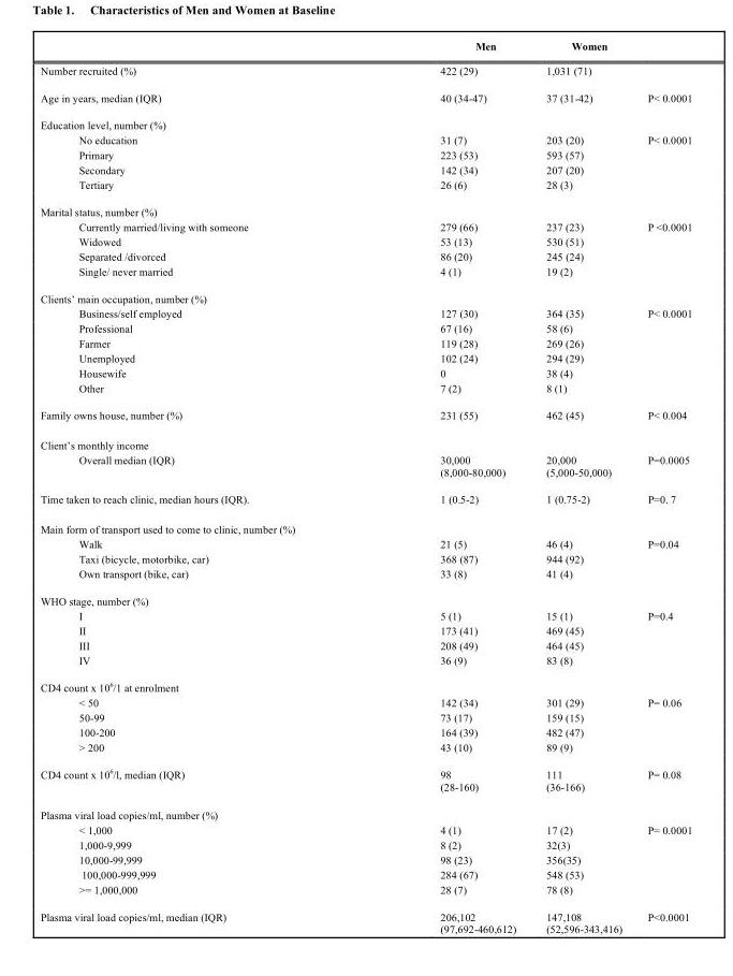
<table><thead><tr><td></td><td>Men</td><td>Women</td><td></td></tr></thead><tbody><tr><td>Number recruited (%)</td><td>422 (29)</td><td>1,031 (71)</td><td></td></tr><tr><td>Age in years, median (IQR)</td><td>40 (34-47)</td><td>37 (31-42)</td><td>P&lt; 0.0001</td></tr><tr><td colspan="4">Education level, number (%)</td></tr><tr><td>No education</td><td>31 (7)</td><td>203 (20)</td><td>P&lt; 0.0001</td></tr><tr><td>Primary</td><td>223 (53)</td><td>593 (57)</td><td></td></tr><tr><td>Secondary</td><td>142 (34)</td><td>207 (20)</td><td></td></tr><tr><td>Tertiary</td><td>26 (6)</td><td>28 (3)</td><td></td></tr><tr><td colspan="4">Marital status, number (%)</td></tr><tr><td>Currently married/living with someone</td><td>279 (66)</td><td>237 (23)</td><td>P &lt;0.0001</td></tr><tr><td>Widowed</td><td>53 (13)</td><td>530 (51)</td><td></td></tr><tr><td>Separated /divorced</td><td>86 (20)</td><td>245 (24)</td><td></td></tr><tr><td>Single/ never married</td><td>4 (1)</td><td>19 (2)</td><td></td></tr><tr><td colspan="4">Clients’ main occupation, number (%)</td></tr><tr><td>Business/self employed</td><td>127 (30)</td><td>364 (35)</td><td>P&lt; 0.0001</td></tr><tr><td>Professional</td><td>67 (16)</td><td>58 (6)</td><td></td></tr><tr><td>Farmer</td><td>119 (28)</td><td>269 (26)</td><td></td></tr><tr><td>Unemployed</td><td>102 (24)</td><td>294 (29)</td><td></td></tr><tr><td>Housewife</td><td>0</td><td>38 (4)</td><td></td></tr><tr><td>Other</td><td>7 (2)</td><td>8 (1)</td><td></td></tr><tr><td>Family owns house, number (%)</td><td>231 (55)</td><td>462 (45)</td><td>P&lt; 0.004</td></tr><tr><td colspan="4">Client’s monthly income</td></tr><tr><td>Overall median (IQR)</td><td>30,000 (8,000-80,000)</td><td>20,000 (5,000-50,000)</td><td>P=0.0005</td></tr><tr><td>Time taken to reach clinic, median hours (IQR).</td><td>1 (0.5-2)</td><td>1 (0.75-2)</td><td>P=0. 7</td></tr><tr><td colspan="4">Main form of transport used to come to clinic, number (%)</td></tr><tr><td>Walk</td><td>21 (5)</td><td>46 (4)</td><td>P=0.04</td></tr><tr><td>Taxi (bicycle, motorbike, car)</td><td>368 (87)</td><td>944 (92)</td><td></td></tr><tr><td>Own transport (bike, car)</td><td>33 (8)</td><td>41 (4)</td><td></td></tr><tr><td colspan="4">WHO stage, number (%)</td></tr><tr><td>I</td><td>5 (1)</td><td>15 (1)</td><td>P=0.4</td></tr><tr><td>II</td><td>173 (41)</td><td>469 (45)</td><td></td></tr><tr><td>III</td><td>208 (49)</td><td>464 (45)</td><td></td></tr><tr><td>IV</td><td>36 (9)</td><td>83 (8)</td><td></td></tr><tr><td colspan="4">CD4 count x 10<sup>6</sup>/1 at enrolment</td></tr><tr><td>&lt; 50</td><td>142 (34)</td><td>301 (29)</td><td>P= 0.06</td></tr><tr><td>50-99</td><td>73 (17)</td><td>159 (15)</td><td></td></tr><tr><td>100-200</td><td>164 (39)</td><td>482 (47)</td><td></td></tr><tr><td>&gt; 200</td><td>43 (10)</td><td>89 (9)</td><td></td></tr><tr><td>CD4 count x 10<sup>6</sup>/l, median (IQR)</td><td>98 (28-160)</td><td>111 (36-166)</td><td>P= 0.08</td></tr><tr><td colspan="4">Plasma viral load copies/ml, number (%)</td></tr><tr><td>&lt; 1,000</td><td>4 (1)</td><td>17 (2)</td><td>P= 0.0001</td></tr><tr><td>1,000-9,999</td><td>8 (2)</td><td>32(3)</td><td></td></tr><tr><td>10,000-99,999</td><td>98 (23)</td><td>356(35)</td><td></td></tr><tr><td>100,000-999,999</td><td>284 (67)</td><td>548 (53)</td><td></td></tr><tr><td>&gt;= 1,000,000</td><td>28 (7)</td><td>78 (8)</td><td></td></tr><tr><td>Plasma viral load copies/ml, median (IQR)</td><td>206,102 (97,692-460,612)</td><td>147,108 (52,596-343,416)</td><td>P&lt;0.0001</td></tr></tbody></table>